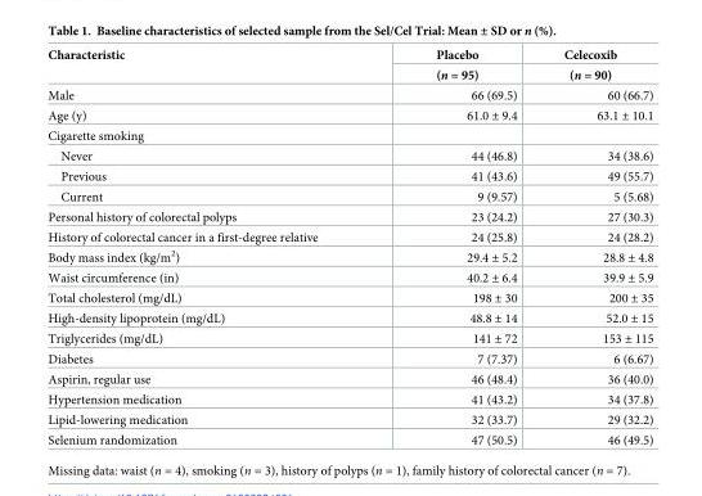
<table><thead><tr><td rowspan="2">Characteristic</td><td rowspan="2">Placebo (n = 95)</td><td rowspan="2">Celecoxib (n = 90)</td></tr><tr></tr></thead><tbody><tr><td>Male</td><td>66 (69.5)</td><td>60 (66.7)</td></tr><tr><td>Age (y)</td><td>61.0 ± 9.4</td><td>63.1 ± 10.1</td></tr><tr><td colspan="3">Cigarette smoking</td></tr><tr><td>Never</td><td>44 (46.8)</td><td>34 (38.6)</td></tr><tr><td>Previous</td><td>41 (43.6)</td><td>49 (55.7)</td></tr><tr><td>Current</td><td>9 (9.57)</td><td>5 (5.68)</td></tr><tr><td>Personal history of colorectal polyps</td><td>23 (24.2)</td><td>27 (30.3)</td></tr><tr><td>History of colorectal cancer in a first-degree relative</td><td>24 (25.8)</td><td>24 (28.2)</td></tr><tr><td>Body mass index (kg/m<sup>2</sup>)</td><td>29.4 ± 5.2</td><td>28.8 ± 4.8</td></tr><tr><td>Waist circumference (in)</td><td>40.2 ± 6.4</td><td>39.9 ± 5.9</td></tr><tr><td>Total cholesterol (mg/dL)</td><td>198 ± 30</td><td>200 ± 35</td></tr><tr><td>High-density lipoprotein (mg/dL)</td><td>48.8 ± 14</td><td>52.0 ± 15</td></tr><tr><td>Triglycerides (mg/dL)</td><td>141 ± 72</td><td>153 ± 115</td></tr><tr><td>Diabetes</td><td>7 (7.37)</td><td>6 (6.67)</td></tr><tr><td>Aspirin, regular use</td><td>46 (48.4)</td><td>36 (40.0)</td></tr><tr><td>Hypertension medication</td><td>41 (43.2)</td><td>34 (37.8)</td></tr><tr><td>Lipid-lowering medication</td><td>32 (33.7)</td><td>29 (32.2)</td></tr><tr><td>Selenium randomization</td><td>47 (50.5)</td><td>46 (49.5)</td></tr></tbody></table>